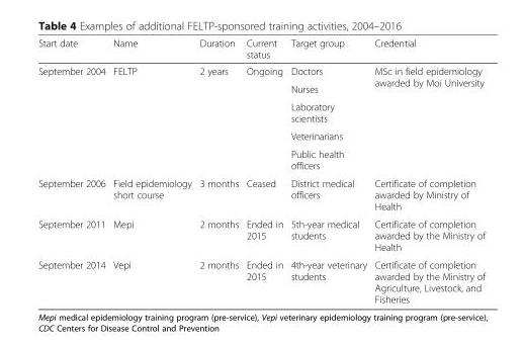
<table><thead><tr><td>Start date</td><td>Name</td><td>Duration</td><td>Current status</td><td>Target group</td><td>Credential</td></tr></thead><tbody><tr><td rowspan="5">September 2004</td><td rowspan="5">FELTP</td><td rowspan="5">2 years</td><td rowspan="5">Ongoing</td><td>Doctors</td><td rowspan="5">MSc in field epidemiology awarded by Moi University</td></tr><tr><td>Nurses</td></tr><tr><td>Laboratory scientists</td></tr><tr><td>Veterinarians</td></tr><tr><td>Public health officers</td></tr><tr><td>September 2006</td><td>Field epidemiology short course</td><td>3 months</td><td>Ceased</td><td>District medical officers</td><td>Certificate of completion awarded by Ministry of Health</td></tr><tr><td>September 2011</td><td>Mepi</td><td>2 months</td><td>Ended in 2015</td><td>5th-year medical students</td><td>Certificate of completion awarded by the Ministry of Health</td></tr><tr><td>September 2014</td><td>Vepi</td><td>2 months</td><td>Ended in 2015</td><td>4th-year veterinary students</td><td>Certificate of completion awarded by the Ministry of Agriculture, Livestock, and Fisheries</td></tr></tbody></table>